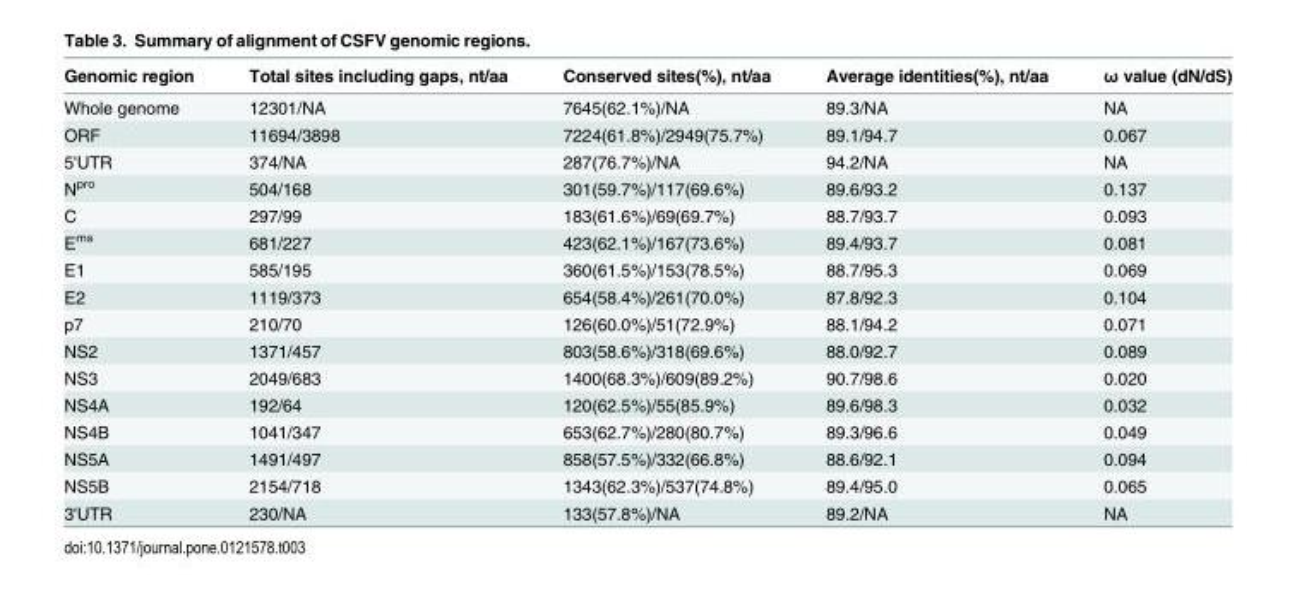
<table><thead><tr><td>Genomic region</td><td>Total sites including gaps, nt/aa</td><td>Conserved sites(%), nt/aa</td><td>Average identities(%), nt/aa</td><td>ω value (dN/dS)</td></tr></thead><tbody><tr><td>Whole genome</td><td>12301/NA</td><td>7645(62.1%)/NA</td><td>89.3/NA</td><td>NA</td></tr><tr><td>ORF</td><td>11694/3898</td><td>7224(61.8%)/2949(75.7%)</td><td>89.1/94.7</td><td>0.067</td></tr><tr><td>5&#x27;UTR</td><td>374/NA</td><td>287(76.7%)/NA</td><td>94.2/NA</td><td>NA</td></tr><tr><td>N<sup>pro</sup></td><td>504/168</td><td>301(59.7%)/117(69.6%)</td><td>89.6/93.2</td><td>0.137</td></tr><tr><td>C</td><td>297/99</td><td>183(61.6%)/69(69.7%)</td><td>88.7/93.7</td><td>0.093</td></tr><tr><td>E<sup>rns</sup></td><td>681/227</td><td>423(62.1%)/167(73.6%)</td><td>89.4/93.7</td><td>0.081</td></tr><tr><td>E1</td><td>585/195</td><td>360(61.5%)/153(78.5%)</td><td>88.7/95.3</td><td>0.069</td></tr><tr><td>E2</td><td>1119/373</td><td>654(58.4%)/261(70.0%)</td><td>87.8/92.3</td><td>0.104</td></tr><tr><td>p7</td><td>210/70</td><td>126(60.0%)/51(72.9%)</td><td>88.1/94.2</td><td>0.071</td></tr><tr><td>NS2</td><td>1371/457</td><td>803(58.6%)/318(69.6%)</td><td>88.0/92.7</td><td>0.089</td></tr><tr><td>NS3</td><td>2049/683</td><td>1400(68.3%)/609(89.2%)</td><td>90.7/98.6</td><td>0.020</td></tr><tr><td>NS4A</td><td>192/64</td><td>120(62.5%)/55(85.9%)</td><td>89.6/98.3</td><td>0.032</td></tr><tr><td>NS4B</td><td>1041/347</td><td>653(62.7%)/280(80.7%)</td><td>89.3/96.6</td><td>0.049</td></tr><tr><td>NS5A</td><td>1491/497</td><td>858(57.5%)/332(66.8%)</td><td>88.6/92.1</td><td>0.094</td></tr><tr><td>NS5B</td><td>2154/718</td><td>1343(62.3%)/537(74.8%)</td><td>89.4/95.0</td><td>0.065</td></tr><tr><td>3&#x27;UTR</td><td>230/NA</td><td>133(57.8%)/NA</td><td>89.2/NA</td><td>NA</td></tr></tbody></table>